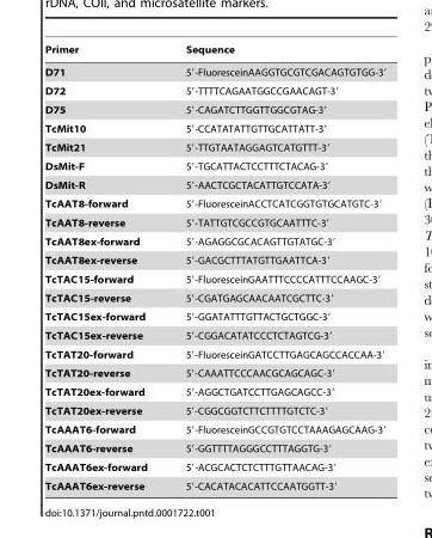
<table><thead><tr><td>Primer</td><td>Sequence</td></tr></thead><tbody><tr><td>D71</td><td>5′-FluoresceinAAGGTGCGTCGACAGTGTGG-3′</td></tr><tr><td>D72</td><td>5′-TTTTCAGAATGGCCGAACAGT-3′</td></tr><tr><td>D75</td><td>5′-CAGATCTTGGTTGGCGTAG-3′</td></tr><tr><td>TcMit10</td><td>5′-CCATATATTGTTGCATTATT-3′</td></tr><tr><td>TcMit21</td><td>5′-TTGTAATAGGAGTCATGTTT-3′</td></tr><tr><td>DsMit-F</td><td>5′-TGCATTACTCCTTTCTACAG-3′</td></tr><tr><td>DsMit-R</td><td>5′-AACTCGCTACATTGTCCATA-3′</td></tr><tr><td>TcAAT8-forward</td><td>5′-FluoresceinACCTCATCGGTGTGCATGTC-3′</td></tr><tr><td>TcAAT8-reverse</td><td>5′-TATTGTCGCCGTGCAATTTC-3′</td></tr><tr><td>TcAAT8ex-forward</td><td>5′-AGAGGCGCACAGTTGTATGC-3′</td></tr><tr><td>TcAAT8ex-reverse</td><td>5′-GACGCTTTATGTTGAATTCA-3′</td></tr><tr><td>TcTAC15-forward</td><td>5′-FluoresceinGAATTTCCCCATTTCCAAGC-3′</td></tr><tr><td>TcTAC15-reverse</td><td>5′-CGATGAGCAACAATCGCTTC-3′</td></tr><tr><td>TcTAC15ex-forward</td><td>5′-GGATATTTGTTACTGCTGGC-3′</td></tr><tr><td>TcTAC15ex-reverse</td><td>5′-CGGACATATCCCTCTAGTCG-3′</td></tr><tr><td>TcTAT20-forward</td><td>5′-FluoresceinGATCCTTGAGCAGCCACCAA-3′</td></tr><tr><td>TcTAT20-reverse</td><td>5′-CAAATTCCCAACGCAGCAGC-3′</td></tr><tr><td>TcTAT20ex-forward</td><td>5′-AGGCTGATCCTTGAGCAGCC-3′</td></tr><tr><td>TcTAT20ex-reverse</td><td>5′-CGGCGGTCTTCTTTTGTCTC-3′</td></tr><tr><td>TcAAAT6-forward</td><td>5′-FluoresceinGCCGTGTCCTAAAGAGCAAG-3′</td></tr><tr><td>TcAAAT6-reverse</td><td>5′-GGTTTTAGGGCCTTTAGGTG-3′</td></tr><tr><td>TcAAAT6ex-forward</td><td>5′-ACGCACTCTCTTTGTTAACAG-3′</td></tr><tr><td>TcAAAT6ex-reverse</td><td>5′-CACATACACATTCCAATGGTT-3′</td></tr></tbody></table>